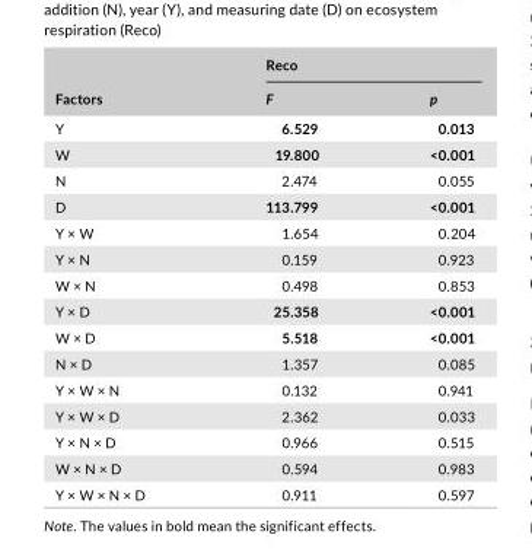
<table><thead><tr><td rowspan="2">Factors</td><td colspan="2">Reco</td></tr><tr><td>F</td><td>p</td></tr></thead><tbody><tr><td>Y</td><td>6.529</td><td>0.013</td></tr><tr><td>W</td><td>19.800</td><td>&lt;0.001</td></tr><tr><td>N</td><td>2.474</td><td>0.055</td></tr><tr><td>D</td><td>113.799</td><td>&lt;0.001</td></tr><tr><td>Y × W</td><td>1.654</td><td>0.204</td></tr><tr><td>Y × N</td><td>0.159</td><td>0.923</td></tr><tr><td>W × N</td><td>0.498</td><td>0.853</td></tr><tr><td>Y × D</td><td>25.358</td><td>&lt;0.001</td></tr><tr><td>W × D</td><td>5.518</td><td>&lt;0.001</td></tr><tr><td>N × D</td><td>1.357</td><td>0.085</td></tr><tr><td>Y × W × N</td><td>0.132</td><td>0.941</td></tr><tr><td>Y × W × D</td><td>2.362</td><td>0.033</td></tr><tr><td>Y × N × D</td><td>0.966</td><td>0.515</td></tr><tr><td>W × N × D</td><td>0.594</td><td>0.983</td></tr><tr><td>Y × W × N × D</td><td>0.911</td><td>0.597</td></tr></tbody></table>